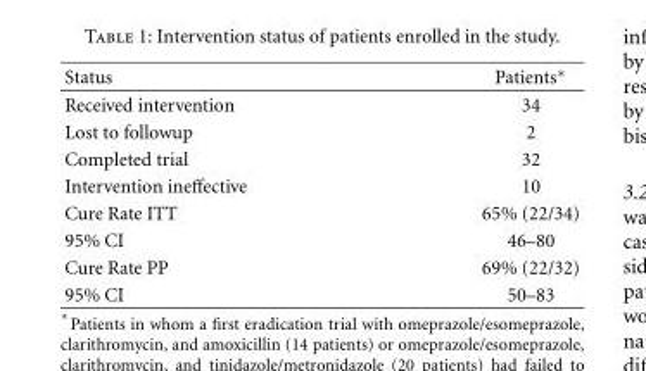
<table><thead><tr><td>Status</td><td>Patients∗</td></tr></thead><tbody><tr><td>Received intervention</td><td>34</td></tr><tr><td>Lost to followup</td><td>2</td></tr><tr><td>Completed trial</td><td>32</td></tr><tr><td>Intervention ineffective</td><td>10</td></tr><tr><td>Cure Rate ITT</td><td>65% (22/34)</td></tr><tr><td>95% CI</td><td>46–80</td></tr><tr><td>Cure Rate PP</td><td>69% (22/32)</td></tr><tr><td>95% CI</td><td>50–83</td></tr></tbody></table>